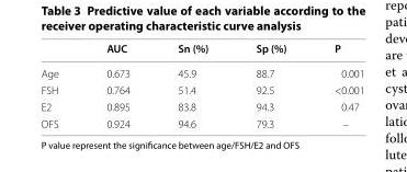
<table><thead><tr><td></td><td>AUC</td><td>Sn (%)</td><td>Sp (%)</td><td>P</td></tr></thead><tbody><tr><td>Age</td><td>0.673</td><td>45.9</td><td>88.7</td><td>0.001</td></tr><tr><td>FSH</td><td>0.764</td><td>51.4</td><td>92.5</td><td>&lt;0.001</td></tr><tr><td>E2</td><td>0.895</td><td>83.8</td><td>94.3</td><td>0.47</td></tr><tr><td>OFS</td><td>0.924</td><td>94.6</td><td>79.3</td><td>–</td></tr></tbody></table>